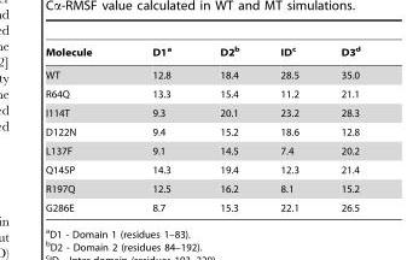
<table><thead><tr><td>Molecule</td><td>D1<sup>a</sup></td><td>D2<sup>b</sup></td><td>ID<sup>c</sup></td><td>D3<sup>d</sup></td></tr></thead><tbody><tr><td>WT</td><td>12.8</td><td>18.4</td><td>28.5</td><td>35.0</td></tr><tr><td>R64Q</td><td>13.3</td><td>15.4</td><td>11.2</td><td>21.1</td></tr><tr><td>I114T</td><td>9.3</td><td>20.1</td><td>23.2</td><td>28.3</td></tr><tr><td>D122N</td><td>9.4</td><td>15.2</td><td>18.6</td><td>12.8</td></tr><tr><td>L137F</td><td>9.1</td><td>14.5</td><td>7.4</td><td>20.2</td></tr><tr><td>Q145P</td><td>14.3</td><td>19.4</td><td>12.3</td><td>21.4</td></tr><tr><td>R197Q</td><td>12.5</td><td>16.2</td><td>8.1</td><td>15.2</td></tr><tr><td>G286E</td><td>8.7</td><td>15.3</td><td>22.1</td><td>26.5</td></tr></tbody></table>